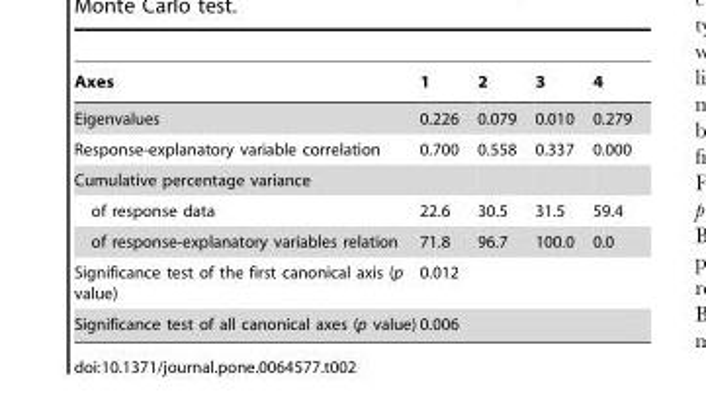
<table><thead><tr><td>Axes</td><td>1</td><td>2</td><td>3</td><td>4</td></tr></thead><tbody><tr><td>Eigenvalues</td><td>0.226</td><td>0.079</td><td>0.010</td><td>0.279</td></tr><tr><td>Response-explanatory variable correlation</td><td>0.700</td><td>0.558</td><td>0.337</td><td>0.000</td></tr><tr><td colspan="5">Cumulative percentage variance</td></tr><tr><td>of response data</td><td>22.6</td><td>30.5</td><td>31.5</td><td>59.4</td></tr><tr><td>of response-explanatory variables relation</td><td>71.8</td><td>96.7</td><td>100.0</td><td>0.0</td></tr><tr><td>Significance test of the first canonical axis (p value)</td><td>0.012</td><td></td><td></td><td></td></tr><tr><td>Significance test of all canonical axes (p value)</td><td colspan="4">0.006</td></tr></tbody></table>